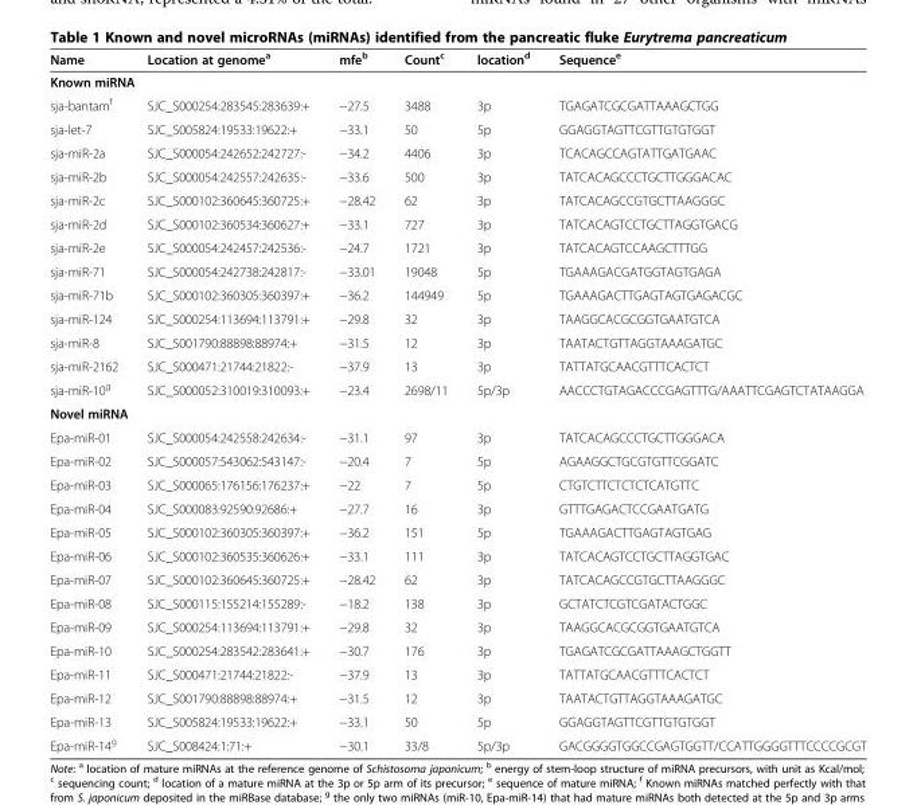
<table><thead><tr><td>Name</td><td>Location at genome<sup>a</sup></td><td>mfe<sup>b</sup></td><td>Count<sup>c</sup></td><td>location<sup>d</sup></td><td>Sequence<sup>e</sup></td></tr></thead><tbody><tr><td colspan="6">Known miRNA</td></tr><tr><td>sja-bantam<sup>f</sup></td><td>SJC_S000254:283545:283639:+</td><td>−27.5</td><td>3488</td><td>3p</td><td>TGAGATCGCGATTAAAGCTGG</td></tr><tr><td>sja-let-7</td><td>SJC_S005824:19533:19622:+</td><td>−33.1</td><td>50</td><td>5p</td><td>GGAGGTAGTTCGTTGTGTGGT</td></tr><tr><td>sja-miR-2a</td><td>SJC_S000054:242652:242727:-</td><td>−34.2</td><td>4406</td><td>3p</td><td>TCACAGCCAGTATTGATGAAC</td></tr><tr><td>sja-miR-2b</td><td>SJC_S000054:242557:242635:-</td><td>−33.6</td><td>500</td><td>3p</td><td>TATCACAGCCCTGCTTGGGACAC</td></tr><tr><td>sja-miR-2c</td><td>SJC_S000102:360645:360725:+</td><td>−28.42</td><td>62</td><td>3p</td><td>TATCACAGCCGTGCTTAAGGGC</td></tr><tr><td>sja-miR-2d</td><td>SJC_S000102:360534:360627:+</td><td>−33.1</td><td>727</td><td>3p</td><td>TATCACAGTCCTGCTTAGGTGACG</td></tr><tr><td>sja-miR-2e</td><td>SJC_S000054:242457:242536:-</td><td>−24.7</td><td>1721</td><td>3p</td><td>TATCACAGTCCAAGCTTTGG</td></tr><tr><td>sja-miR-71</td><td>SJC_S000054:242738:242817:-</td><td>−33.01</td><td>19048</td><td>5p</td><td>TGAAAGACGATGGTAGTGAGA</td></tr><tr><td>sja-miR-71b</td><td>SJC_S000102:360305:360397:+</td><td>−36.2</td><td>144949</td><td>5p</td><td>TGAAAGACTTGAGTAGTGAGACGC</td></tr><tr><td>sja-miR-124</td><td>SJC_S000254:113694:113791:+</td><td>−29.8</td><td>32</td><td>3p</td><td>TAAGGCACGCGGTGAATGTCA</td></tr><tr><td>sja-miR-8</td><td>SJC_S001790:88898:88974:+</td><td>−31.5</td><td>12</td><td>3p</td><td>TAATACTGTTAGGTAAAGATGC</td></tr><tr><td>sja-miR-2162</td><td>SJC_S000471:21744:21822:-</td><td>−37.9</td><td>13</td><td>3p</td><td>TATTATGCAACGTTTCACTCT</td></tr><tr><td>sja-miR-10<sup>g</sup></td><td>SJC_S000052:310019:310093:+</td><td>−23.4</td><td>2698/11</td><td>5p/3p</td><td>AACCCTGTAGACCCGAGTTTG/AAATTCGAGTCTATAAGGA</td></tr><tr><td colspan="6">Novel miRNA</td></tr><tr><td>Epa-miR-01</td><td>SJC_S000054:242558:242634:-</td><td>−31.1</td><td>97</td><td>3p</td><td>TATCACAGCCCTGCTTGGGACA</td></tr><tr><td>Epa-miR-02</td><td>SJC_S000057:543062:543147:-</td><td>−20.4</td><td>7</td><td>5p</td><td>AGAAGGCTGCGTGTTCGGATC</td></tr><tr><td>Epa-miR-03</td><td>SJC_S000065:176156:176237:+</td><td>−22</td><td>7</td><td>5p</td><td>CTGTCTTCTCTCTCATGTTC</td></tr><tr><td>Epa-miR-04</td><td>SJC_S000083:92590:92686:+</td><td>−27.7</td><td>16</td><td>3p</td><td>GTTTGAGACTCCGAATGATG</td></tr><tr><td>Epa-miR-05</td><td>SJC_S000102:360305:360397:+</td><td>−36.2</td><td>151</td><td>5p</td><td>TGAAAGACTTGAGTAGTGAG</td></tr><tr><td>Epa-miR-06</td><td>SJC_S000102:360535:360626:+</td><td>−33.1</td><td>111</td><td>3p</td><td>TATCACAGTCCTGCTTAGGTGAC</td></tr><tr><td>Epa-miR-07</td><td>SJC_S000102:360645:360725:+</td><td>−28.42</td><td>62</td><td>3p</td><td>TATCACAGCCGTGCTTAAGGGC</td></tr><tr><td>Epa-miR-08</td><td>SJC_S000115:155214:155289:-</td><td>−18.2</td><td>138</td><td>3p</td><td>GCTATCTCGTCGATACTGGC</td></tr><tr><td>Epa-miR-09</td><td>SJC_S000254:113694:113791:+</td><td>−29.8</td><td>32</td><td>3p</td><td>TAAGGCACGCGGTGAATGTCA</td></tr><tr><td>Epa-miR-10</td><td>SJC_S000254:283542:283641:+</td><td>−30.7</td><td>176</td><td>3p</td><td>TGAGATCGCGATTAAAGCTGGTT</td></tr><tr><td>Epa-miR-11</td><td>SJC_S000471:21744:21822:-</td><td>−37.9</td><td>13</td><td>3p</td><td>TATTATGCAACGTTTCACTCT</td></tr><tr><td>Epa-miR-12</td><td>SJC_S001790:88898:88974:+</td><td>−31.5</td><td>12</td><td>3p</td><td>TAATACTGTTAGGTAAAGATGC</td></tr><tr><td>Epa-miR-13</td><td>SJC_S005824:19533:19622:+</td><td>−33.1</td><td>50</td><td>5p</td><td>GGAGGTAGTTCGTTGTGTGGT</td></tr><tr><td>Epa-miR-14<sup>g</sup></td><td>SJC_S008424:1:71:+</td><td>−30.1</td><td>33/8</td><td>5p/3p</td><td>GACGGGGTGGCCGAGTGGTT/CCATTGGGGTTTCCCCGCGT</td></tr></tbody></table>